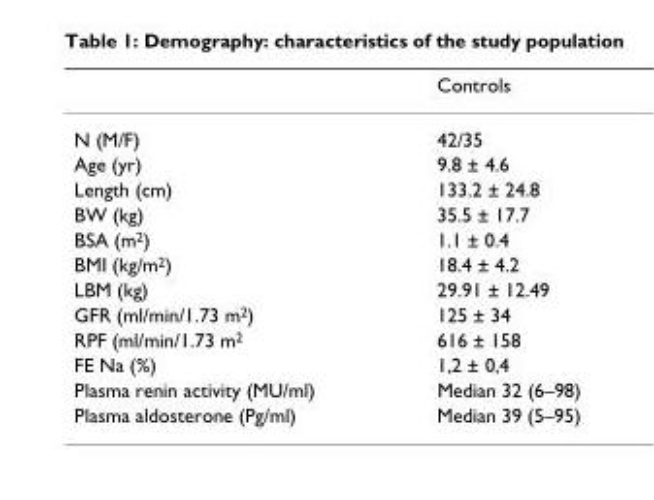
<table><thead><tr><td></td><td>Controls</td></tr></thead><tbody><tr><td>N (M/F)</td><td>42/35</td></tr><tr><td>Age (yr)</td><td>9.8 ± 4.6</td></tr><tr><td>Length (cm)</td><td>133.2 ± 24.8</td></tr><tr><td>BW (kg)</td><td>35.5 ± 17.7</td></tr><tr><td>BSA (m<sup>2</sup>)</td><td>1.1 ± 0.4</td></tr><tr><td>BMI (kg/m<sup>2</sup>)</td><td>18.4 ± 4.2</td></tr><tr><td>LBM (kg)</td><td>29.91 ± 12.49</td></tr><tr><td>GFR (ml/min/1.73 m<sup>2</sup>)</td><td>125 ± 34</td></tr><tr><td>RPF (ml/min/1.73 m<sup>2</sup></td><td>616 ± 158</td></tr><tr><td>FE Na (%)</td><td>1,2 ± 0,4</td></tr><tr><td>Plasma renin activity (MU/ml)</td><td>Median 32 (6–98)</td></tr><tr><td>Plasma aldosterone (Pg/ml)</td><td>Median 39 (5–95)</td></tr></tbody></table>